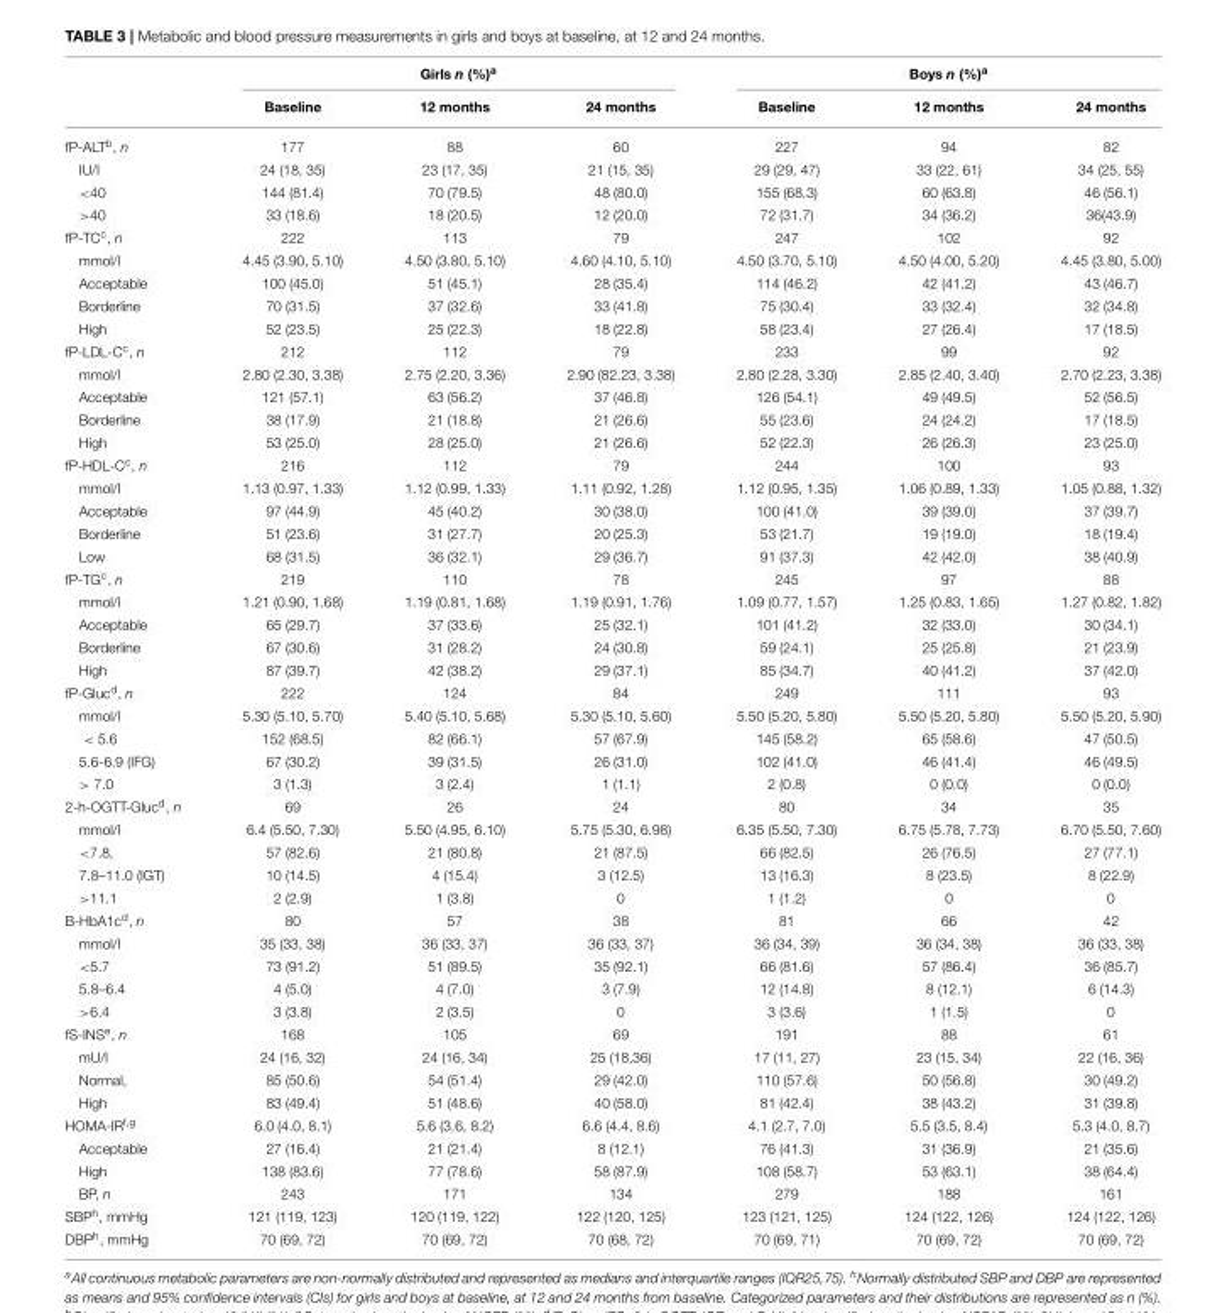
<table><thead><tr><td rowspan="2"></td><td colspan="3">Girls n (%)<sup>a</sup></td><td colspan="3">Boys n (%)<sup>a</sup></td></tr><tr><td>Baseline</td><td>12 months</td><td>24 months</td><td>Baseline</td><td>12 months</td><td>24 months</td></tr></thead><tbody><tr><td>fP-ALT<sup>b</sup>, n</td><td>177</td><td>88</td><td>60</td><td>227</td><td>94</td><td>82</td></tr><tr><td>IU/l</td><td>24 (18, 35)</td><td>23 (17, 35)</td><td>21 (15, 35)</td><td>29 (29, 47)</td><td>33 (22, 61)</td><td>34 (25, 55)</td></tr><tr><td>&lt;40</td><td>144 (81.4)</td><td>70 (79.5)</td><td>48 (80.0)</td><td>155 (68.3)</td><td>60 (63.8)</td><td>46 (56.1)</td></tr><tr><td>&gt;40</td><td>33 (18.6)</td><td>18 (20.5)</td><td>12 (20.0)</td><td>72 (31.7)</td><td>34 (36.2)</td><td>36(43.9)</td></tr><tr><td>fP-TC<sup>c</sup>, n</td><td>222</td><td>113</td><td>79</td><td>247</td><td>102</td><td>92</td></tr><tr><td>mmol/l</td><td>4.45 (3.90, 5.10)</td><td>4.50 (3.80, 5.10)</td><td>4.60 (4.10, 5.10)</td><td>4.50 (3.70, 5.10)</td><td>4.50 (4.00, 5.20)</td><td>4.45 (3.80, 5.00)</td></tr><tr><td>Acceptable</td><td>100 (45.0)</td><td>51 (45.1)</td><td>28 (35.4)</td><td>114 (46.2)</td><td>42 (41.2)</td><td>43 (46.7)</td></tr><tr><td>Borderline</td><td>70 (31.5)</td><td>37 (32.6)</td><td>33 (41.8)</td><td>75 (30.4)</td><td>33 (32.4)</td><td>32 (34.8)</td></tr><tr><td>High</td><td>52 (23.5)</td><td>25 (22.3)</td><td>18 (22.8)</td><td>58 (23.4)</td><td>27 (26.4)</td><td>17 (18.5)</td></tr><tr><td>fP-LDL-C<sup>c</sup>, n</td><td>212</td><td>112</td><td>79</td><td>233</td><td>99</td><td>92</td></tr><tr><td>mmol/l</td><td>2.80 (2.30, 3.38)</td><td>2.75 (2.20, 3.36)</td><td>2.90 (82.23, 3.38)</td><td>2.80 (2.28, 3.30)</td><td>2.85 (2.40, 3.40)</td><td>2.70 (2.23, 3.38)</td></tr><tr><td>Acceptable</td><td>121 (57.1)</td><td>63 (56.2)</td><td>37 (46.8)</td><td>126 (54.1)</td><td>49 (49.5)</td><td>52 (56.5)</td></tr><tr><td>Borderline</td><td>38 (17.9)</td><td>21 (18.8)</td><td>21 (26.6)</td><td>55 (23.6)</td><td>24 (24.2)</td><td>17 (18.5)</td></tr><tr><td>High</td><td>53 (25.0)</td><td>28 (25.0)</td><td>21 (26.6)</td><td>52 (22.3)</td><td>26 (26.3)</td><td>23 (25.0)</td></tr><tr><td>fP-HDL-C<sup>c</sup>, n</td><td>216</td><td>112</td><td>79</td><td>244</td><td>100</td><td>93</td></tr><tr><td>mmol/l</td><td>1.13 (0.97, 1.33)</td><td>1.12 (0.99, 1.33)</td><td>1.11 (0.92, 1.28)</td><td>1.12 (0.95, 1.35)</td><td>1.06 (0.89, 1.33)</td><td>1.05 (0.88, 1.32)</td></tr><tr><td>Acceptable</td><td>97 (44.9)</td><td>45 (40.2)</td><td>30 (38.0)</td><td>100 (41.0)</td><td>39 (39.0)</td><td>37 (39.7)</td></tr><tr><td>Borderline</td><td>51 (23.6)</td><td>31 (27.7)</td><td>20 (25.3)</td><td>53 (21.7)</td><td>19 (19.0)</td><td>18 (19.4)</td></tr><tr><td>Low</td><td>68 (31.5)</td><td>36 (32.1)</td><td>29 (36.7)</td><td>91 (37.3)</td><td>42 (42.0)</td><td>38 (40.9)</td></tr><tr><td>fP-TG<sup>c</sup>, n</td><td>219</td><td>110</td><td>78</td><td>245</td><td>97</td><td>88</td></tr><tr><td>mmol/l</td><td>1.21 (0.90, 1.68)</td><td>1.19 (0.81, 1.68)</td><td>1.19 (0.91, 1.76)</td><td>1.09 (0.77, 1.57)</td><td>1.25 (0.83, 1.65)</td><td>1.27 (0.82, 1.82)</td></tr><tr><td>Acceptable</td><td>65 (29.7)</td><td>37 (33.6)</td><td>25 (32.1)</td><td>101 (41.2)</td><td>32 (33.0)</td><td>30 (34.1)</td></tr><tr><td>Borderline</td><td>67 (30.6)</td><td>31 (28.2)</td><td>24 (30.8)</td><td>59 (24.1)</td><td>25 (25.8)</td><td>21 (23.9)</td></tr><tr><td>High</td><td>87 (39.7)</td><td>42 (38.2)</td><td>29 (37.1)</td><td>85 (34.7)</td><td>40 (41.2)</td><td>37 (42.0)</td></tr><tr><td>fP-Gluc<sup>d</sup>, n</td><td>222</td><td>124</td><td>84</td><td>249</td><td>111</td><td>93</td></tr><tr><td>mmol/l</td><td>5.30 (5.10, 5.70)</td><td>5.40 (5.10, 5.68)</td><td>5.30 (5.10, 5.60)</td><td>5.50 (5.20, 5.80)</td><td>5.50 (5.20, 5.80)</td><td>5.50 (5.20, 5.90)</td></tr><tr><td>&lt; 5.6</td><td>152 (68.5)</td><td>82 (66.1)</td><td>57 (67.9)</td><td>145 (58.2)</td><td>65 (58.6)</td><td>47 (50.5)</td></tr><tr><td>5.6-6.9 (IFG)</td><td>67 (30.2)</td><td>39 (31.5)</td><td>26 (31.0)</td><td>102 (41.0)</td><td>46 (41.4)</td><td>46 (49.5)</td></tr><tr><td>&gt; 7.0</td><td>3 (1.3)</td><td>3 (2.4)</td><td>1 (1.1)</td><td>2 (0.8)</td><td>0 (0.0)</td><td>0 (0.0)</td></tr><tr><td>2-h-OGTT-Gluc<sup>d</sup>, n</td><td>69</td><td>26</td><td>24</td><td>80</td><td>34</td><td>35</td></tr><tr><td>mmol/l</td><td>6.4 (5.50, 7.30)</td><td>5.50 (4.95, 6.10)</td><td>5.75 (5.30, 6.98)</td><td>6.35 (5.50, 7.30)</td><td>6.75 (5.78, 7.73)</td><td>6.70 (5.50, 7.60)</td></tr><tr><td>&lt;7.8,</td><td>57 (82.6)</td><td>21 (80.8)</td><td>21 (87.5)</td><td>66 (82.5)</td><td>26 (76.5)</td><td>27 (77.1)</td></tr><tr><td>7.8–11.0 (IGT)</td><td>10 (14.5)</td><td>4 (15.4)</td><td>3 (12.5)</td><td>13 (16.3)</td><td>8 (23.5)</td><td>8 (22.9)</td></tr><tr><td>&gt;11.1</td><td>2 (2.9)</td><td>1 (3.8)</td><td>0</td><td>1 (1.2)</td><td>0</td><td>0</td></tr><tr><td>B-HbA1c<sup>d</sup>, n</td><td>80</td><td>57</td><td>38</td><td>81</td><td>66</td><td>42</td></tr><tr><td>mmol/l</td><td>35 (33, 38)</td><td>36 (33, 37)</td><td>36 (33, 37)</td><td>36 (34, 39)</td><td>36 (34, 38)</td><td>36 (33, 38)</td></tr><tr><td>&lt;5.7</td><td>73 (91.2)</td><td>51 (89.5)</td><td>35 (92.1)</td><td>66 (81.6)</td><td>57 (86.4)</td><td>36 (85.7)</td></tr><tr><td>5.8–6.4</td><td>4 (5.0)</td><td>4 (7.0)</td><td>3 (7.9)</td><td>12 (14.8)</td><td>8 (12.1)</td><td>6 (14.3)</td></tr><tr><td>&gt;6.4</td><td>3 (3.8)</td><td>2 (3.5)</td><td>0</td><td>3 (3.6)</td><td>1 (1.5)</td><td>0</td></tr><tr><td>fS-INS<sup>e</sup>, n</td><td>168</td><td>105</td><td>69</td><td>191</td><td>88</td><td>61</td></tr><tr><td>mU/l</td><td>24 (16, 32)</td><td>24 (16, 34)</td><td>25 (18,36)</td><td>17 (11, 27)</td><td>23 (15, 34)</td><td>22 (16, 36)</td></tr><tr><td>Normal,</td><td>85 (50.6)</td><td>54 (51.4)</td><td>29 (42.0)</td><td>110 (57.6)</td><td>50 (56.8)</td><td>30 (49.2)</td></tr><tr><td>High</td><td>83 (49.4)</td><td>51 (48.6)</td><td>40 (58.0)</td><td>81 (42.4)</td><td>38 (43.2)</td><td>31 (39.8)</td></tr><tr><td>HOMA-IR<sup>f,g</sup></td><td>6.0 (4.0, 8.1)</td><td>5.6 (3.6, 8.2)</td><td>6.6 (4.4, 8.6)</td><td>4.1 (2.7, 7.0)</td><td>5.5 (3.5, 8.4)</td><td>5.3 (4.0, 8.7)</td></tr><tr><td>Acceptable</td><td>27 (16.4)</td><td>21 (21.4)</td><td>8 (12.1)</td><td>76 (41.3)</td><td>31 (36.9)</td><td>21 (35.6)</td></tr><tr><td>High</td><td>138 (83.6)</td><td>77 (78.6)</td><td>58 (87.9)</td><td>108 (58.7)</td><td>53 (63.1)</td><td>38 (64.4)</td></tr><tr><td>BP, n</td><td>243</td><td>171</td><td>134</td><td>279</td><td>188</td><td>161</td></tr><tr><td>SBP<sup>h</sup>, mmHg</td><td>121 (119, 123)</td><td>120 (119, 122)</td><td>122 (120, 125)</td><td>123 (121, 125)</td><td>124 (122, 126)</td><td>124 (122, 126)</td></tr><tr><td>DBP<sup>h</sup>, mmHg</td><td>70 (69, 72)</td><td>70 (69, 72)</td><td>70 (68, 72)</td><td>70 (69, 71)</td><td>70 (69, 72)</td><td>70 (69, 72)</td></tr></tbody></table>